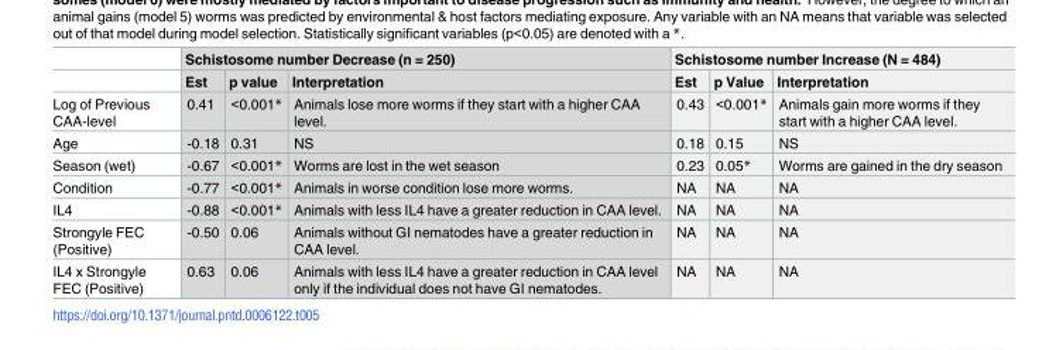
<table><thead><tr><td rowspan="2"></td><td colspan="3">Schistosome number Decrease (n = 250)</td><td colspan="3">Schistosome number Increase (N = 484)</td></tr><tr><td>Est</td><td>p value</td><td>Interpretation</td><td>Est</td><td>p Value</td><td>Interpretation</td></tr></thead><tbody><tr><td>Log of Previous CAA-level</td><td>0.41</td><td>&lt;0.001*</td><td>Animals lose more worms if they start with a higher CAA level.</td><td>0.43</td><td>&lt;0.001*</td><td>Animals gain more worms if they start with a higher CAA level.</td></tr><tr><td>Age</td><td>-0.18</td><td>0.31</td><td>NS</td><td>0.18</td><td>0.15</td><td>NS</td></tr><tr><td>Season (wet)</td><td>-0.67</td><td>&lt;0.001*</td><td>Worms are lost in the wet season</td><td>0.23</td><td>0.05*</td><td>Worms are gained in the dry season</td></tr><tr><td>Condition</td><td>-0.77</td><td>&lt;0.001*</td><td>Animals in worse condition lose more worms.</td><td>NA</td><td>NA</td><td>NA</td></tr><tr><td>IL4</td><td>-0.88</td><td>&lt;0.001*</td><td>Animals with less IL4 have a greater reduction in CAA level.</td><td>NA</td><td>NA</td><td>NA</td></tr><tr><td>Strongyle FEC (Positive)</td><td>-0.50</td><td>0.06</td><td>Animals without GI nematodes have a greater reduction in CAA level.</td><td>NA</td><td>NA</td><td>NA</td></tr><tr><td>IL4 x Strongyle FEC (Positive)</td><td>0.63</td><td>0.06</td><td>Animals with less IL4 have a greater reduction in CAA level only if the individual does not have GI nematodes.</td><td>NA</td><td>NA</td><td>NA</td></tr></tbody></table>